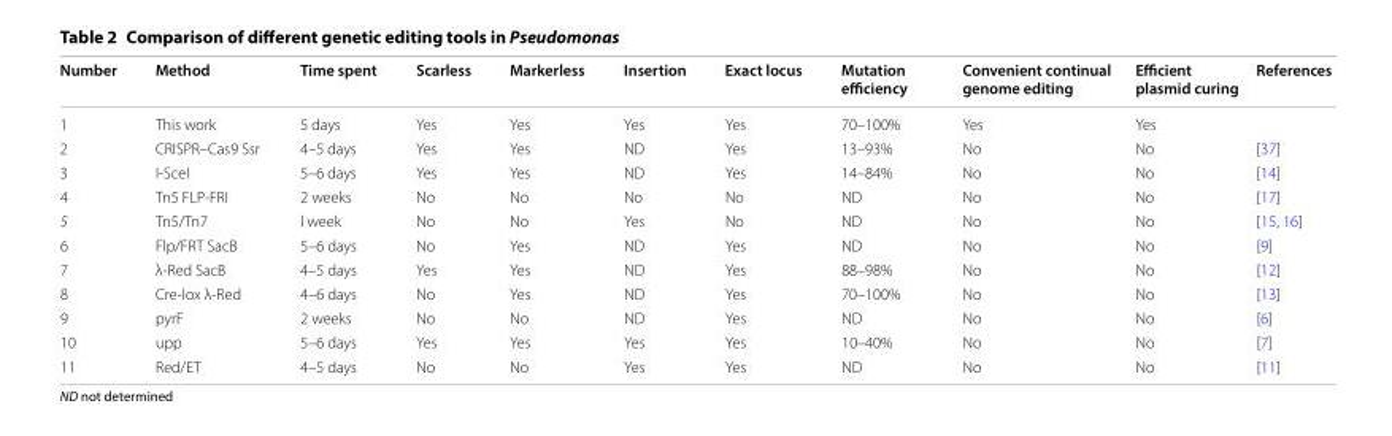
<table><thead><tr><td>Number</td><td>Method</td><td>Time spent</td><td>Scarless</td><td>Markerless</td><td>Insertion</td><td>Exact locus</td><td>Mutation efficiency</td><td>Convenient continual genome editing</td><td>Efficient plasmid curing</td><td>References</td></tr></thead><tbody><tr><td>1</td><td>This work</td><td>5 days</td><td>Yes</td><td>Yes</td><td>Yes</td><td>Yes</td><td>70–100%</td><td>Yes</td><td>Yes</td><td></td></tr><tr><td>2</td><td>CRISPR–Cas9 Ssr</td><td>4–5 days</td><td>Yes</td><td>Yes</td><td>ND</td><td>Yes</td><td>13–93%</td><td>No</td><td>No</td><td>[37]</td></tr><tr><td>3</td><td>I-SceI</td><td>5–6 days</td><td>Yes</td><td>Yes</td><td>ND</td><td>Yes</td><td>14–84%</td><td>No</td><td>No</td><td>[14]</td></tr><tr><td>4</td><td>Tn5 FLP-FRI</td><td>2 weeks</td><td>No</td><td>No</td><td>No</td><td>No</td><td>ND</td><td>No</td><td>No</td><td>[17]</td></tr><tr><td>5</td><td>Tn5/Tn7</td><td>l week</td><td>No</td><td>No</td><td>Yes</td><td>No</td><td>ND</td><td>No</td><td>No</td><td>[15, 16]</td></tr><tr><td>6</td><td>Flp/FRT SacB</td><td>5–6 days</td><td>No</td><td>Yes</td><td>ND</td><td>Yes</td><td>ND</td><td>No</td><td>No</td><td>[9]</td></tr><tr><td>7</td><td>λ-Red SacB</td><td>4–5 days</td><td>Yes</td><td>Yes</td><td>ND</td><td>Yes</td><td>88–98%</td><td>No</td><td>No</td><td>[12]</td></tr><tr><td>8</td><td>Cre-lox λ-Red</td><td>4–6 days</td><td>No</td><td>Yes</td><td>ND</td><td>Yes</td><td>70–100%</td><td>No</td><td>No</td><td>[13]</td></tr><tr><td>9</td><td>pyrF</td><td>2 weeks</td><td>No</td><td>No</td><td>ND</td><td>Yes</td><td>ND</td><td>No</td><td>No</td><td>[6]</td></tr><tr><td>10</td><td>upp</td><td>5–6 days</td><td>Yes</td><td>Yes</td><td>Yes</td><td>Yes</td><td>10–40%</td><td>No</td><td>No</td><td>[7]</td></tr><tr><td>11</td><td>Red/ET</td><td>4–5 days</td><td>No</td><td>No</td><td>Yes</td><td>Yes</td><td>ND</td><td>No</td><td>No</td><td>[11]</td></tr></tbody></table>